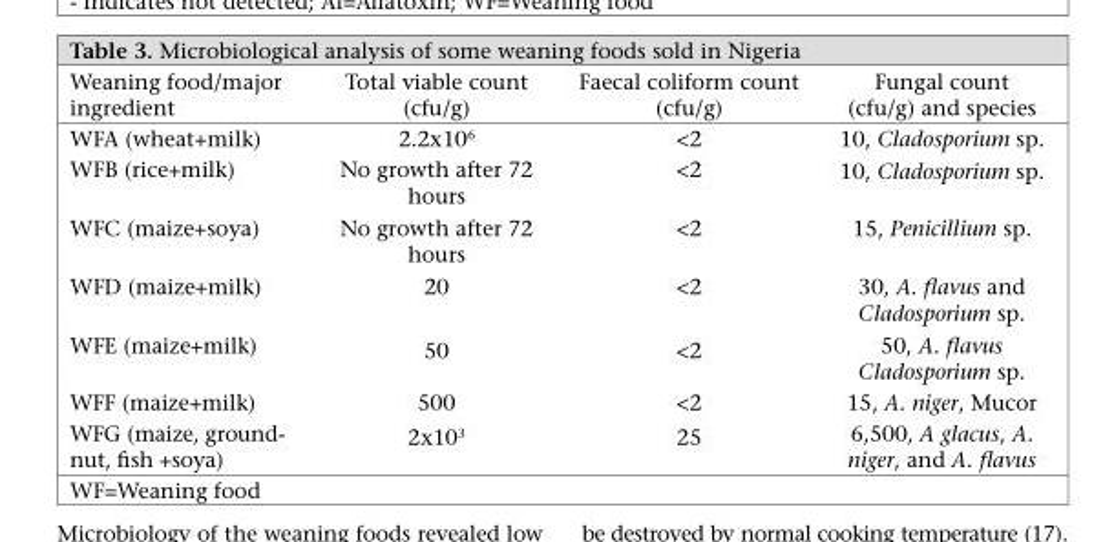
<table><thead><tr><td>Weaning food/major ingredient</td><td>Total viable count (cfu/g)</td><td>Faecal coliform count (cfu/g)</td><td>Fungal count (cfu/g) and species</td></tr></thead><tbody><tr><td>WFA (wheat+milk)</td><td>2.2x106</td><td>&lt;2</td><td>10, Cladosporium sp.</td></tr><tr><td>WFB (rice+milk)</td><td>No growth after 72 hours</td><td>&lt;2</td><td>10, Cladosporium sp.</td></tr><tr><td>WFC (maize+soya)</td><td>No growth after 72 hours</td><td>&lt;2</td><td>15, Penicillium sp.</td></tr><tr><td>WFD (maize+milk)</td><td>20</td><td>&lt;2</td><td>30, A. flavus and Cladosporium sp.</td></tr><tr><td>WFE (maize+milk)</td><td>50</td><td>&lt;2</td><td>50, A. flavus Cladosporium sp.</td></tr><tr><td>WFF (maize+milk)</td><td>500</td><td>&lt;2</td><td>15, A. niger, Mucor</td></tr><tr><td>WFG (maize, ground- nut, fish +soya)</td><td>2x103</td><td>25</td><td>6,500, A glacus, A. niger, and A. flavus</td></tr></tbody></table>